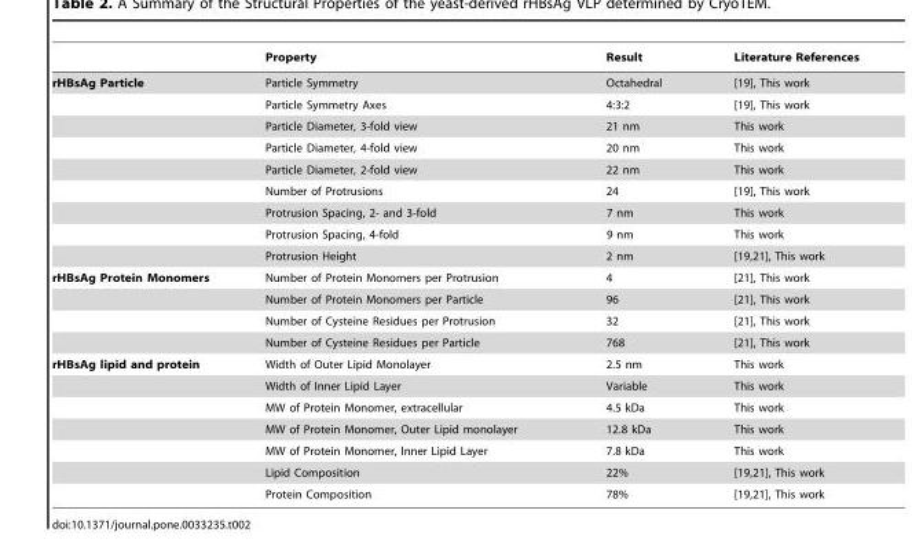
<table><thead><tr><td></td><td>Property</td><td>Result</td><td>Literature References</td></tr></thead><tbody><tr><td rowspan="9">rHBsAg Particle</td><td>Particle Symmetry</td><td>Octahedral</td><td>[19], This work</td></tr><tr><td>Particle Symmetry Axes</td><td>4:3:2</td><td>[19], This work</td></tr><tr><td>Particle Diameter, 3-fold view</td><td>21 nm</td><td>This work</td></tr><tr><td>Particle Diameter, 4-fold view</td><td>20 nm</td><td>This work</td></tr><tr><td>Particle Diameter, 2-fold view</td><td>22 nm</td><td>This work</td></tr><tr><td>Number of Protrusions</td><td>24</td><td>[19], This work</td></tr><tr><td>Protrusion Spacing, 2- and 3-fold</td><td>7 nm</td><td>This work</td></tr><tr><td>Protrusion Spacing, 4-fold</td><td>9 nm</td><td>This work</td></tr><tr><td>Protrusion Height</td><td>2 nm</td><td>[19,21], This work</td></tr><tr><td rowspan="4">rHBsAg Protein Monomers</td><td>Number of Protein Monomers per Protrusion</td><td>4</td><td>[21], This work</td></tr><tr><td>Number of Protein Monomers per Particle</td><td>96</td><td>[21], This work</td></tr><tr><td>Number of Cysteine Residues per Protrusion</td><td>32</td><td>[21], This work</td></tr><tr><td>Number of Cysteine Residues per Particle</td><td>768</td><td>[21], This work</td></tr><tr><td rowspan="7">rHBsAg lipid and protein</td><td>Width of Outer Lipid Monolayer</td><td>2.5 nm</td><td>This work</td></tr><tr><td>Width of Inner Lipid Layer</td><td>Variable</td><td>This work</td></tr><tr><td>MW of Protein Monomer, extracellular</td><td>4.5 kDa</td><td>This work</td></tr><tr><td>MW of Protein Monomer, Outer Lipid monolayer</td><td>12.8 kDa</td><td>This work</td></tr><tr><td>MW of Protein Monomer, Inner Lipid Layer</td><td>7.8 kDa</td><td>This work</td></tr><tr><td>Lipid Composition</td><td>22%</td><td>[19,21], This work</td></tr><tr><td>Protein Composition</td><td>78%</td><td>[19,21], This work</td></tr></tbody></table>